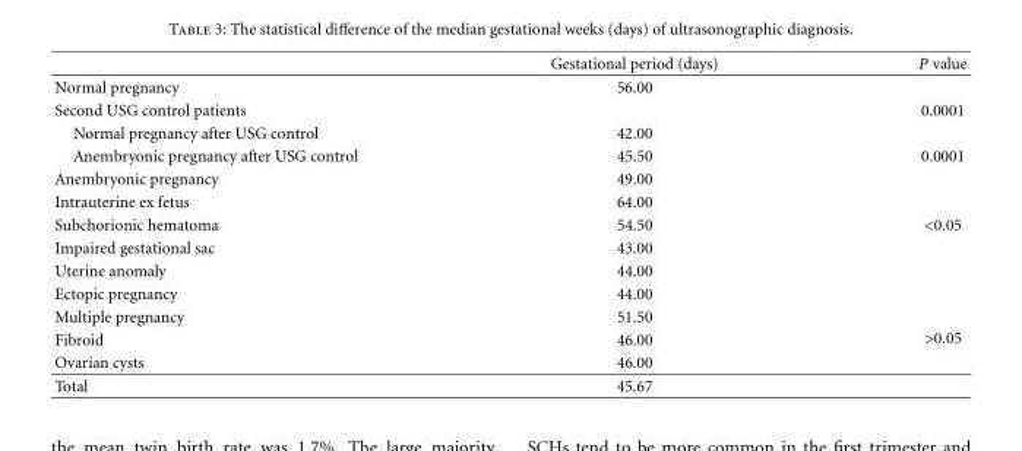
<table><thead><tr><td></td><td>Gestational period (days)</td><td>P value</td></tr></thead><tbody><tr><td>Normal pregnancy</td><td>56.00</td><td></td></tr><tr><td>Second USG control patients</td><td></td><td>0.0001</td></tr><tr><td>Normal pregnancy after USG control</td><td>42.00</td><td></td></tr><tr><td>Anembryonic pregnancy after USG control</td><td>45.50</td><td>0.0001</td></tr><tr><td>Anembryonic pregnancy</td><td>49.00</td><td></td></tr><tr><td>Intrauterine ex fetus</td><td>64.00</td><td></td></tr><tr><td>Subchorionic hematoma</td><td>54.50</td><td>&lt;0.05</td></tr><tr><td>Impaired gestational sac</td><td>43.00</td><td></td></tr><tr><td>Uterine anomaly</td><td>44.00</td><td></td></tr><tr><td>Ectopic pregnancy</td><td>44.00</td><td></td></tr><tr><td>Multiple pregnancy</td><td>51.50</td><td rowspan="3">&gt;0.05</td></tr><tr><td>Fibroid</td><td>46.00</td></tr><tr><td>Ovarian cysts</td><td>46.00</td></tr><tr><td>Total</td><td>45.67</td><td></td></tr></tbody></table>